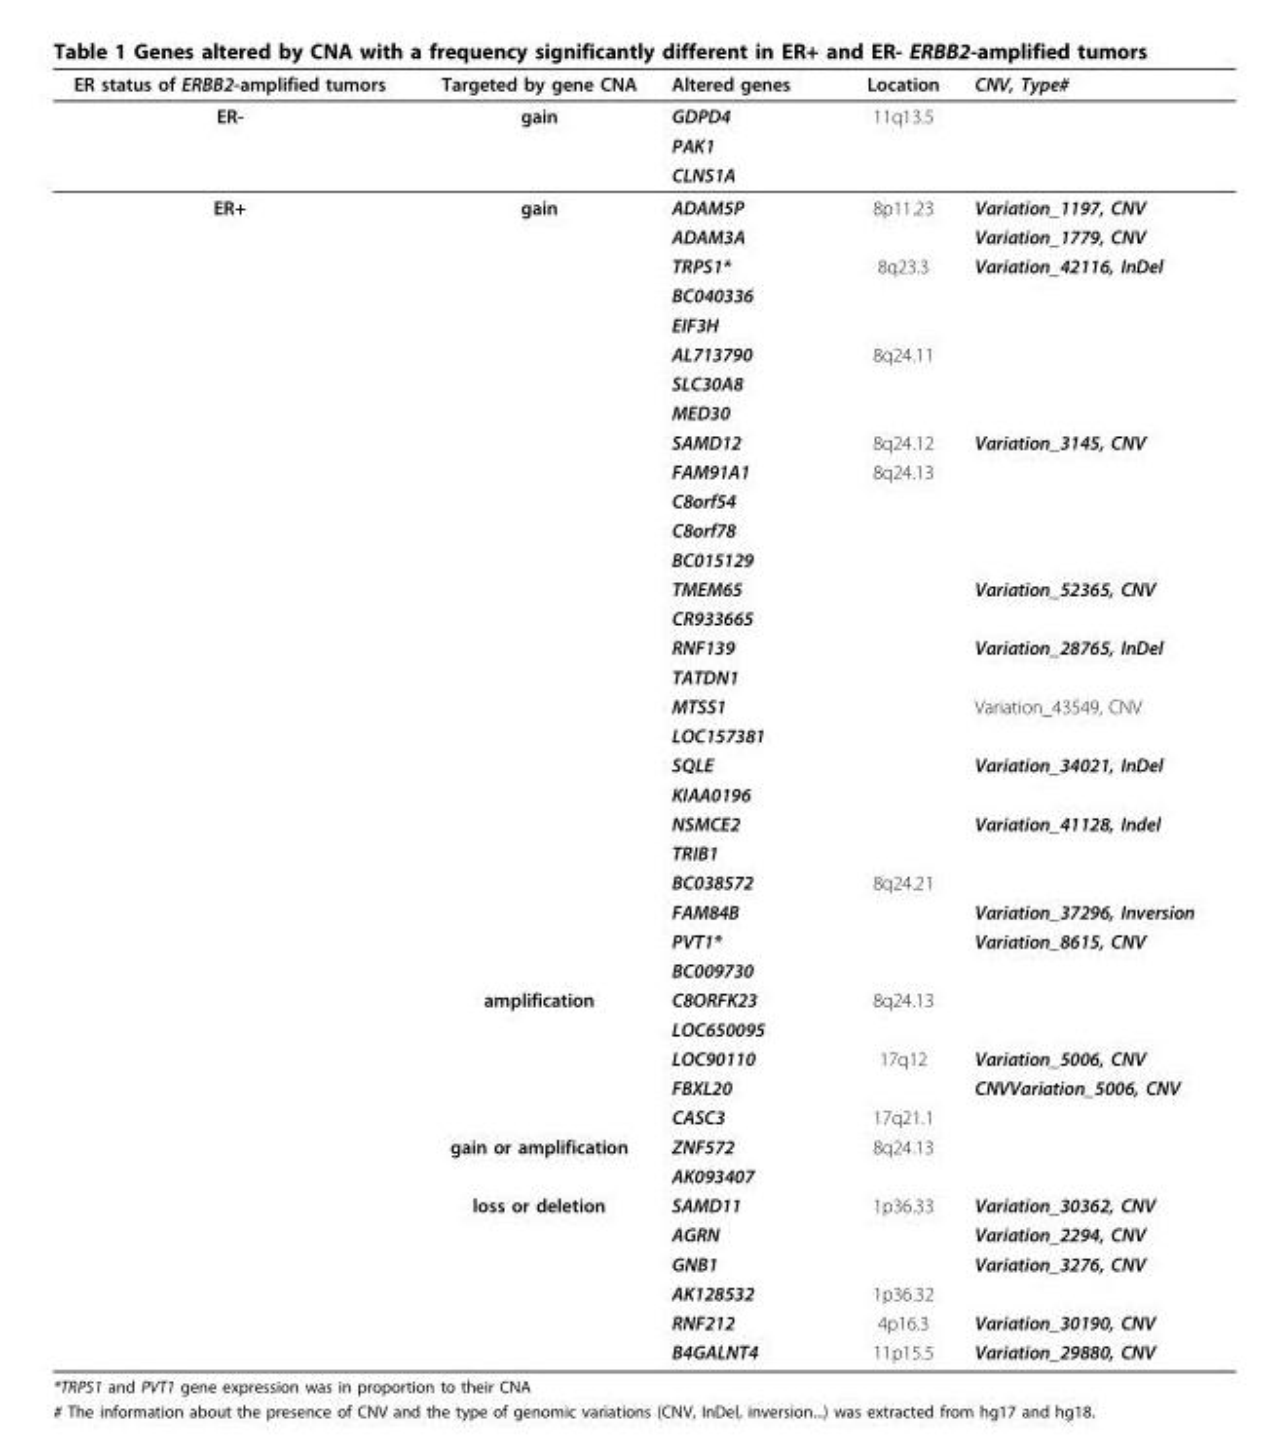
<table><thead><tr><td>ER status of ERBB2-amplified tumors</td><td>Targeted by gene CNA</td><td>Altered genes</td><td>Location</td><td>CNV, Type#</td></tr></thead><tbody><tr><td rowspan="3">ER-</td><td>gain</td><td>GDPD4</td><td>11q13.5</td><td></td></tr><tr><td></td><td>PAK1</td><td></td><td></td></tr><tr><td></td><td>CLNS1A</td><td></td><td></td></tr><tr><td rowspan="40">ER+</td><td>gain</td><td>ADAM5P</td><td>8p11.23</td><td>Variation_1197, CNV</td></tr><tr><td></td><td>ADAM3A</td><td></td><td>Variation_1779, CNV</td></tr><tr><td></td><td>TRPS1*</td><td>8q23.3</td><td>Variation_42116, InDel</td></tr><tr><td></td><td>BC040336</td><td></td><td></td></tr><tr><td></td><td>EIF3H</td><td></td><td></td></tr><tr><td></td><td>AL713790</td><td>8q24.11</td><td></td></tr><tr><td></td><td>SLC30A8</td><td></td><td></td></tr><tr><td></td><td>MED30</td><td></td><td></td></tr><tr><td></td><td>SAMD12</td><td>8q24.12</td><td>Variation_3145, CNV</td></tr><tr><td></td><td>FAM91A1</td><td>8q24.13</td><td></td></tr><tr><td></td><td>C8orf54</td><td></td><td></td></tr><tr><td></td><td>C8orf78</td><td></td><td></td></tr><tr><td></td><td>BC015129</td><td></td><td></td></tr><tr><td></td><td>TMEM65</td><td></td><td>Variation_52365, CNV</td></tr><tr><td></td><td>CR933665</td><td></td><td></td></tr><tr><td></td><td>RNF139</td><td></td><td>Variation_28765, InDel</td></tr><tr><td></td><td>TATDN1</td><td></td><td></td></tr><tr><td></td><td>MTSS1</td><td></td><td>Variation_43549, CNV</td></tr><tr><td></td><td>LOC157381</td><td></td><td></td></tr><tr><td></td><td>SQLE</td><td></td><td>Variation_34021, InDel</td></tr><tr><td></td><td>KIAA0196</td><td></td><td></td></tr><tr><td></td><td>NSMCE2</td><td></td><td>Variation_41128, Indel</td></tr><tr><td></td><td>TRIB1</td><td></td><td></td></tr><tr><td></td><td>BC038572</td><td>8q24.21</td><td></td></tr><tr><td></td><td>FAM84B</td><td></td><td>Variation_37296, Inversion</td></tr><tr><td></td><td>PVT1*</td><td></td><td>Variation_8615, CNV</td></tr><tr><td></td><td>BC009730</td><td></td><td></td></tr><tr><td>amplification</td><td>C8ORFK23</td><td>8q24.13</td><td></td></tr><tr><td></td><td>LOC650095</td><td></td><td></td></tr><tr><td></td><td>LOC90110</td><td>17q12</td><td>Variation_5006, CNV</td></tr><tr><td></td><td>FBXL20</td><td></td><td>CNVVariation_5006, CNV</td></tr><tr><td></td><td>CASC3</td><td>17q21.1</td><td></td></tr><tr><td>gain or amplification</td><td>ZNF572</td><td>8q24.13</td><td></td></tr><tr><td></td><td>AK093407</td><td></td><td></td></tr><tr><td>loss or deletion</td><td>SAMD11</td><td>1p36.33</td><td>Variation_30362, CNV</td></tr><tr><td></td><td>AGRN</td><td></td><td>Variation_2294, CNV</td></tr><tr><td></td><td>GNB1</td><td></td><td>Variation_3276, CNV</td></tr><tr><td></td><td>AK128532</td><td>1p36.32</td><td></td></tr><tr><td></td><td>RNF212</td><td>4p16.3</td><td>Variation_30190, CNV</td></tr><tr><td></td><td>B4GALNT4</td><td>11p15.5</td><td>Variation_29880, CNV</td></tr></tbody></table>